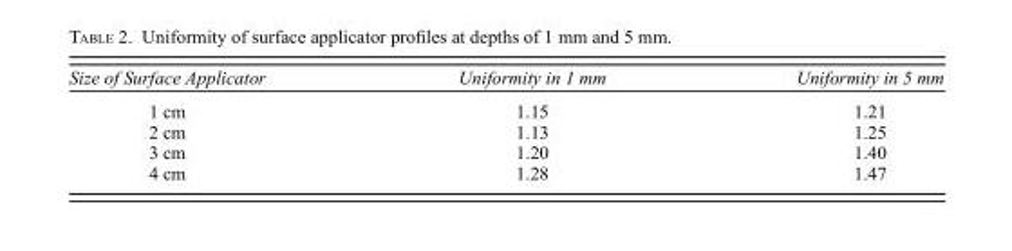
<table><thead><tr><td>Size of Surface Applicator</td><td>Uniformity in 1 mm</td><td>Uniformity in 5 mm</td></tr></thead><tbody><tr><td>1 cm</td><td>1.15</td><td>1.21</td></tr><tr><td>2 cm</td><td>1.13</td><td>1.25</td></tr><tr><td>3 cm</td><td>1.20</td><td>1.40</td></tr><tr><td>4 cm</td><td>1.28</td><td>1.47</td></tr></tbody></table>